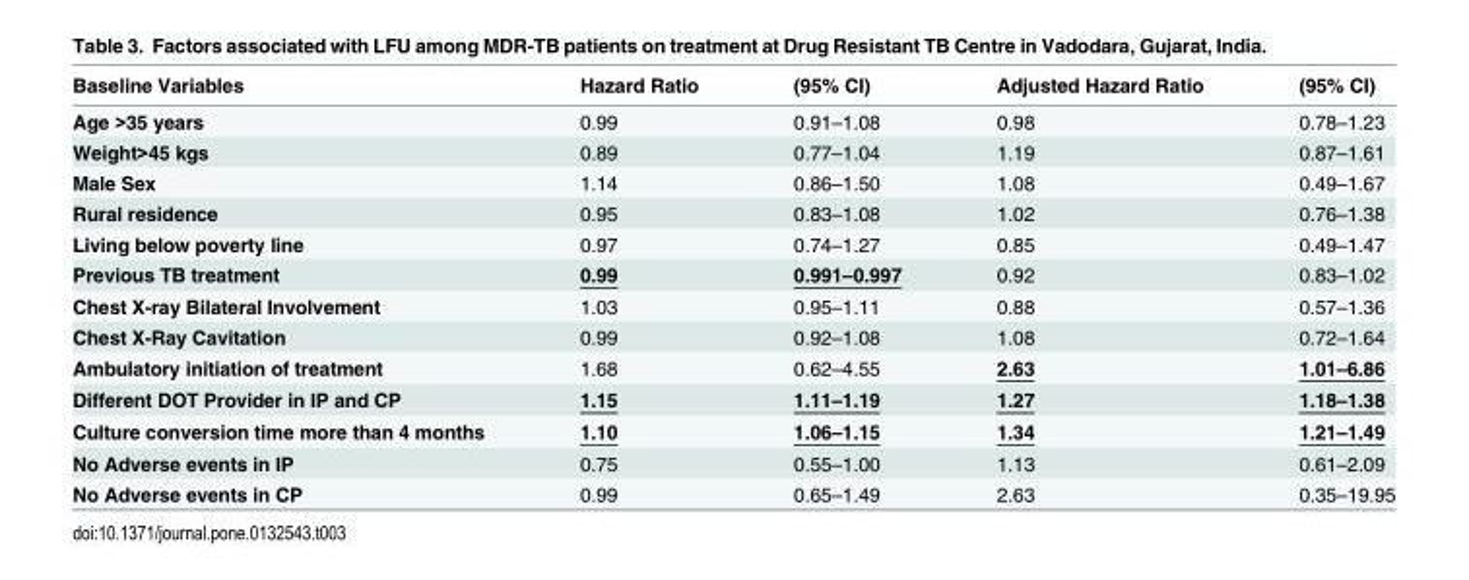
<table><thead><tr><td>Baseline Variables</td><td>Hazard Ratio</td><td>(95% CI)</td><td>Adjusted Hazard Ratio</td><td>(95% CI)</td></tr></thead><tbody><tr><td>Age &gt;35 years</td><td>0.99</td><td>0.91–1.08</td><td>0.98</td><td>0.78–1.23</td></tr><tr><td>Weight&gt;45 kgs</td><td>0.89</td><td>0.77–1.04</td><td>1.19</td><td>0.87–1.61</td></tr><tr><td>Male Sex</td><td>1.14</td><td>0.86–1.50</td><td>1.08</td><td>0.49–1.67</td></tr><tr><td>Rural residence</td><td>0.95</td><td>0.83–1.08</td><td>1.02</td><td>0.76–1.38</td></tr><tr><td>Living below poverty line</td><td>0.97</td><td>0.74–1.27</td><td>0.85</td><td>0.49–1.47</td></tr><tr><td>Previous TB treatment</td><td>0.99</td><td>0.991–0.997</td><td>0.92</td><td>0.83–1.02</td></tr><tr><td>Chest X-ray Bilateral Involvement</td><td>1.03</td><td>0.95–1.11</td><td>0.88</td><td>0.57–1.36</td></tr><tr><td>Chest X-Ray Cavitation</td><td>0.99</td><td>0.92–1.08</td><td>1.08</td><td>0.72–1.64</td></tr><tr><td>Ambulatory initiation of treatment</td><td>1.68</td><td>0.62–4.55</td><td>2.63</td><td>1.01–6.86</td></tr><tr><td>Different DOT Provider in IP and CP</td><td>1.15</td><td>1.11–1.19</td><td>1.27</td><td>1.18–1.38</td></tr><tr><td>Culture conversion time more than 4 months</td><td>1.10</td><td>1.06–1.15</td><td>1.34</td><td>1.21–1.49</td></tr><tr><td>No Adverse events in IP</td><td>0.75</td><td>0.55–1.00</td><td>1.13</td><td>0.61–2.09</td></tr><tr><td>No Adverse events in CP</td><td>0.99</td><td>0.65–1.49</td><td>2.63</td><td>0.35–19.95</td></tr></tbody></table>